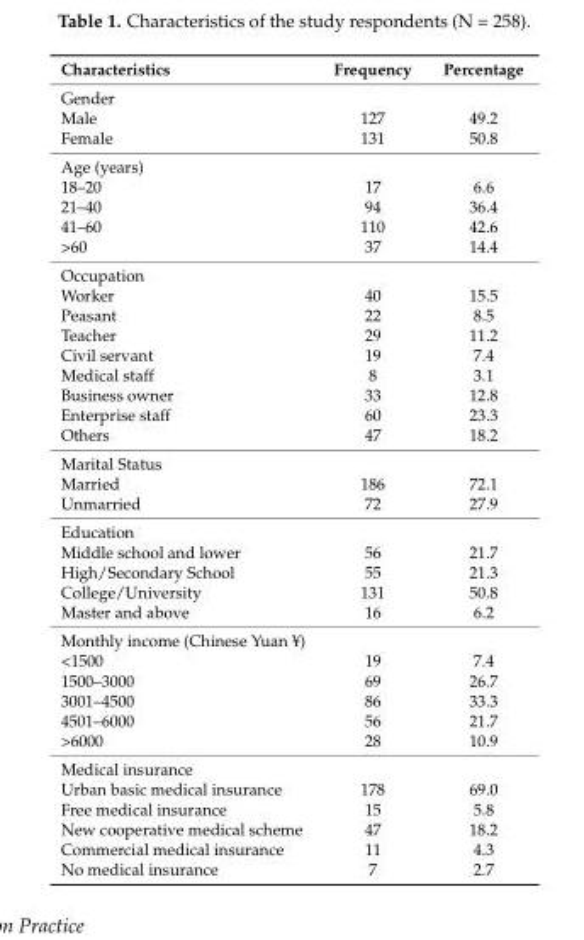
<table><thead><tr><td>Characteristics</td><td>Frequency</td><td>Percentage</td></tr></thead><tbody><tr><td colspan="3">Gender</td></tr><tr><td>Male</td><td>127</td><td>49.2</td></tr><tr><td>Female</td><td>131</td><td>50.8</td></tr><tr><td colspan="3">Age (years)</td></tr><tr><td>18–20</td><td>17</td><td>6.6</td></tr><tr><td>21–40</td><td>94</td><td>36.4</td></tr><tr><td>41–60</td><td>110</td><td>42.6</td></tr><tr><td>&gt;60</td><td>37</td><td>14.4</td></tr><tr><td colspan="3">Occupation</td></tr><tr><td>Worker</td><td>40</td><td>15.5</td></tr><tr><td>Peasant</td><td>22</td><td>8.5</td></tr><tr><td>Teacher</td><td>29</td><td>11.2</td></tr><tr><td>Civil servant</td><td>19</td><td>7.4</td></tr><tr><td>Medical staff</td><td>8</td><td>3.1</td></tr><tr><td>Business owner</td><td>33</td><td>12.8</td></tr><tr><td>Enterprise staff</td><td>60</td><td>23.3</td></tr><tr><td>Others</td><td>47</td><td>18.2</td></tr><tr><td colspan="3">Marital Status</td></tr><tr><td>Married</td><td>186</td><td>72.1</td></tr><tr><td>Unmarried</td><td>72</td><td>27.9</td></tr><tr><td colspan="3">Education</td></tr><tr><td>Middle school and lower</td><td>56</td><td>21.7</td></tr><tr><td>High/Secondary School</td><td>55</td><td>21.3</td></tr><tr><td>College/University</td><td>131</td><td>50.8</td></tr><tr><td>Master and above</td><td>16</td><td>6.2</td></tr><tr><td colspan="3">Monthly income (Chinese Yuan ¥)</td></tr><tr><td>&lt;1500</td><td>19</td><td>7.4</td></tr><tr><td>1500–3000</td><td>69</td><td>26.7</td></tr><tr><td>3001–4500</td><td>86</td><td>33.3</td></tr><tr><td>4501–6000</td><td>56</td><td>21.7</td></tr><tr><td>&gt;6000</td><td>28</td><td>10.9</td></tr><tr><td colspan="3">Medical insurance</td></tr><tr><td>Urban basic medical insurance</td><td>178</td><td>69.0</td></tr><tr><td>Free medical insurance</td><td>15</td><td>5.8</td></tr><tr><td>New cooperative medical scheme</td><td>47</td><td>18.2</td></tr><tr><td>Commercial medical insurance</td><td>11</td><td>4.3</td></tr><tr><td>No medical insurance</td><td>7</td><td>2.7</td></tr></tbody></table>